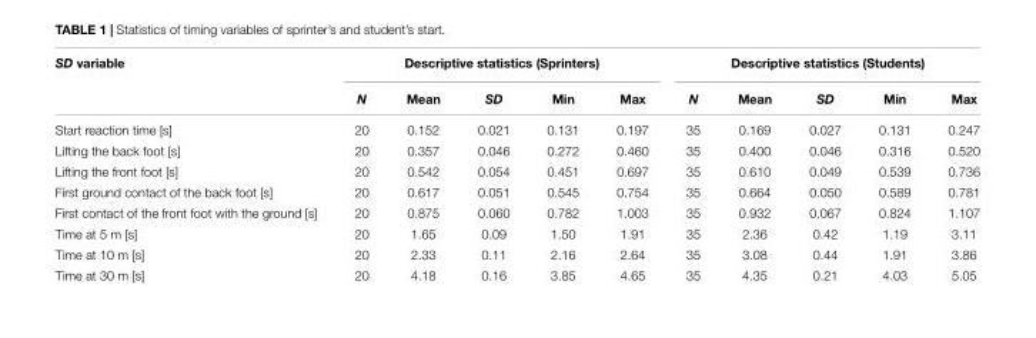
<table><thead><tr><td rowspan="2">SD variable</td><td colspan="5">Descriptive statistics (Sprinters)</td><td colspan="5">Descriptive statistics (Students)</td></tr><tr><td>N</td><td>Mean</td><td>SD</td><td>Min</td><td>Max</td><td>N</td><td>Mean</td><td>SD</td><td>Min</td><td>Max</td></tr></thead><tbody><tr><td>Start reaction time [s]</td><td>20</td><td>0.152</td><td>0.021</td><td>0.131</td><td>0.197</td><td>35</td><td>0.169</td><td>0.027</td><td>0.131</td><td>0.247</td></tr><tr><td>Lifting the back foot [s]</td><td>20</td><td>0.357</td><td>0.046</td><td>0.272</td><td>0.460</td><td>35</td><td>0.400</td><td>0.046</td><td>0.316</td><td>0.520</td></tr><tr><td>Lifting the front foot [s]</td><td>20</td><td>0.542</td><td>0.054</td><td>0.451</td><td>0.697</td><td>35</td><td>0.610</td><td>0.049</td><td>0.539</td><td>0.736</td></tr><tr><td>First ground contact of the back foot [s]</td><td>20</td><td>0.617</td><td>0.051</td><td>0.545</td><td>0.754</td><td>35</td><td>0.664</td><td>0.050</td><td>0.589</td><td>0.781</td></tr><tr><td>First contact of the front foot with the ground [s]</td><td>20</td><td>0.875</td><td>0.060</td><td>0.782</td><td>1.003</td><td>35</td><td>0.932</td><td>0.067</td><td>0.824</td><td>1.107</td></tr><tr><td>Time at 5 m [s]</td><td>20</td><td>1.65</td><td>0.09</td><td>1.50</td><td>1.91</td><td>35</td><td>2.36</td><td>0.42</td><td>1.19</td><td>3.11</td></tr><tr><td>Time at 10 m [s]</td><td>20</td><td>2.33</td><td>0.11</td><td>2.16</td><td>2.64</td><td>35</td><td>3.08</td><td>0.44</td><td>1.91</td><td>3.86</td></tr><tr><td>Time at 30 m [s]</td><td>20</td><td>4.18</td><td>0.16</td><td>3.85</td><td>4.65</td><td>35</td><td>4.35</td><td>0.21</td><td>4.03</td><td>5.05</td></tr></tbody></table>